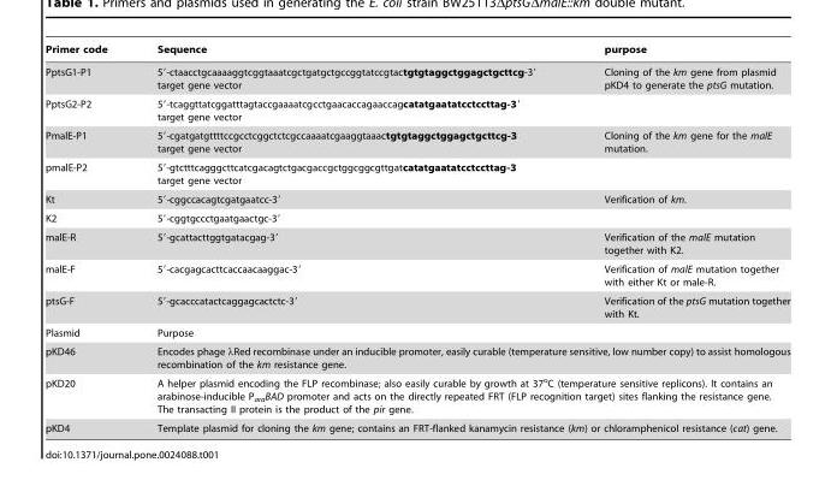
<table><thead><tr><td>Primer code</td><td>Sequence</td><td>purpose</td></tr></thead><tbody><tr><td>PptsG1-P1</td><td>5′-ctaacctgcaaaaggtcggtaaatcgctgatgctgccggtatccgtactgtgtaggctggagctgcttcg-3′ target gene vector</td><td>Cloning of the km gene from plasmid pKD4 to generate the ptsG mutation.</td></tr><tr><td>PptsG2-P2</td><td>5′-tcaggttatcggatttagtaccgaaaatcgcctgaacaccagaaccagcatatgaatatcctccttag-3′ target gene vector</td><td></td></tr><tr><td>PmalE-P1</td><td>5′-cgatgatgttttccgcctcggctctcgccaaaatcgaaggtaaactgtgtaggctggagctgcttcg-3 target gene vector</td><td>Cloning of the km gene for the malE mutation.</td></tr><tr><td>pmalE-P2</td><td>5′-gtctttcagggcttcatcgacagtctgacgaccgctggcggcgttgatcatatgaatatcctccttag-3 target gene vector</td><td></td></tr><tr><td>Kt</td><td>5′-cggccacagtcgatgaatcc-3′</td><td>Verification of km.</td></tr><tr><td>K2</td><td>5′-cggtgccctgaatgaactgc-3′</td><td></td></tr><tr><td>malE-R</td><td>5′-gcattacttggtgatacgag-3′</td><td>Verification of the malE mutation together with K2.</td></tr><tr><td>malE-F</td><td>5′-cacgagcacttcaccaacaaggac-3′</td><td>Verification of malE mutation together with either Kt or male-R.</td></tr><tr><td>ptsG-F</td><td>5′-gcacccatactcaggagcactctc-3′</td><td>Verification of the ptsG mutation together with Kt.</td></tr><tr><td>Plasmid</td><td colspan="2">Purpose</td></tr><tr><td>pKD46</td><td colspan="2">Encodes phage λRed recombinase under an inducible promoter, easily curable (temperature sensitive, low number copy) to assist homologous recombination of the km resistance gene.</td></tr><tr><td>pKD20</td><td colspan="2">A helper plasmid encoding the FLP recombinase; also easily curable by growth at 37<sup>o</sup>C (temperature sensitive replicons). It contains an arabinose-inducible P<sub>ara</sub>BAD promoter and acts on the directly repeated FRT (FLP recognition target) sites flanking the resistance gene. The transacting II protein is the product of the pir gene.</td></tr><tr><td>pKD4</td><td colspan="2">Template plasmid for cloning the km gene; contains an FRT-flanked kanamycin resistance (km) or chloramphenicol resistance (cat) gene.</td></tr></tbody></table>